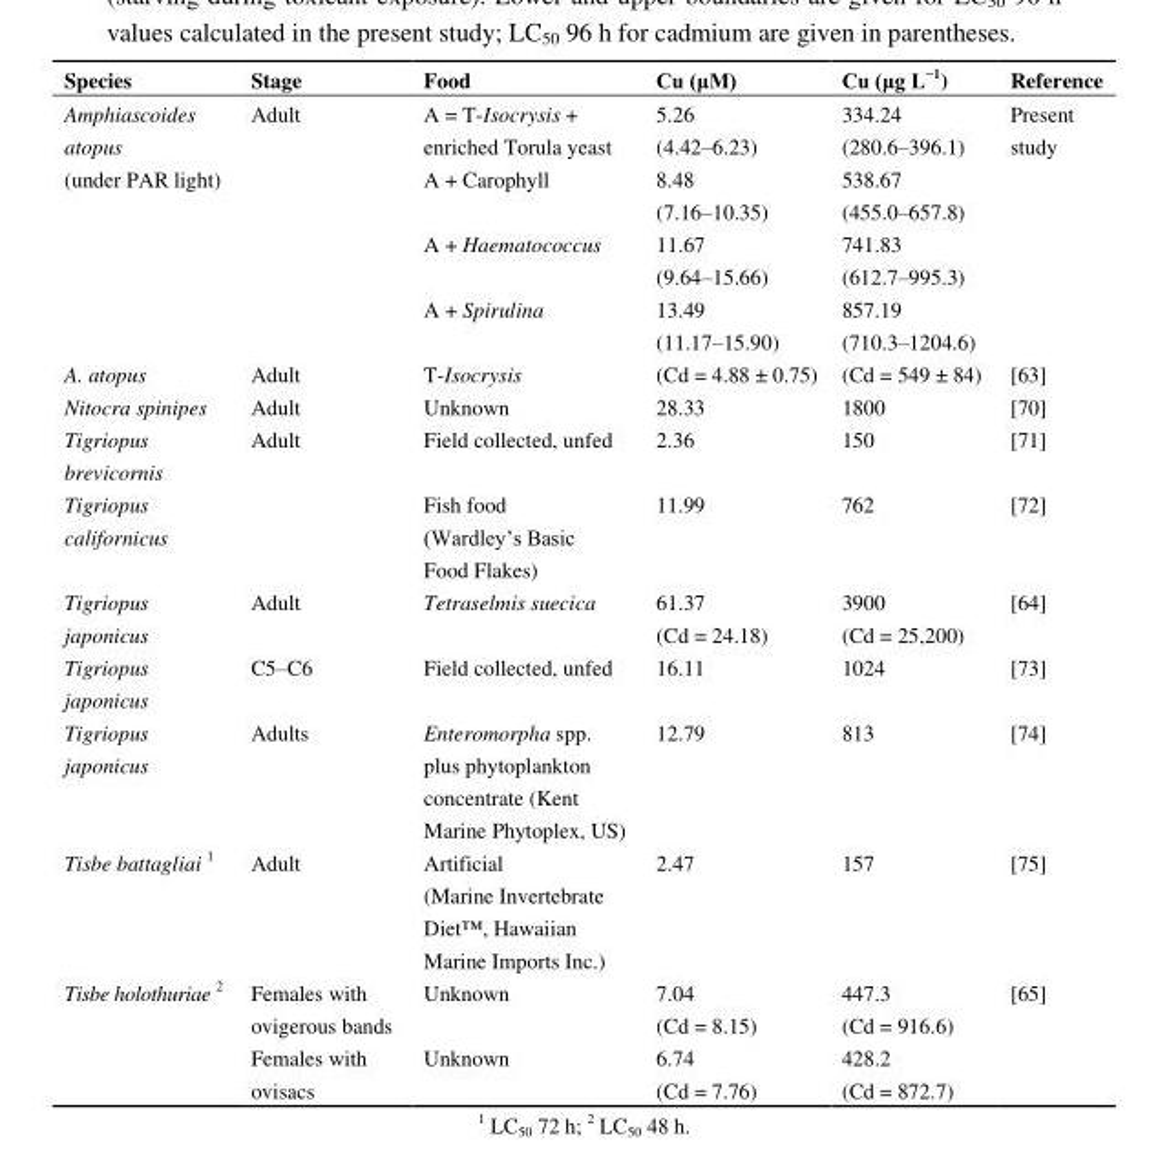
<table><thead><tr><td>Species</td><td>Stage</td><td>Food</td><td>Cu (μM)</td><td>Cu (μg L<sup>−1</sup>)</td><td>Reference</td></tr></thead><tbody><tr><td rowspan="4">Amphiascoides atopus (under PAR light)</td><td rowspan="4">Adult</td><td>A = T-Isocrysis + enriched Torula yeast</td><td>5.26 (4.42–6.23)</td><td>334.24 (280.6–396.1)</td><td rowspan="4">Present study</td></tr><tr><td>A + Carophyll</td><td>8.48 (7.16–10.35)</td><td>538.67 (455.0–657.8)</td></tr><tr><td>A + Haematococcus</td><td>11.67 (9.64–15.66)</td><td>741.83 (612.7–995.3)</td></tr><tr><td>A + Spirulina</td><td>13.49 (11.17–15.90)</td><td>857.19 (710.3–1204.6)</td></tr><tr><td>A. atopus</td><td>Adult</td><td>T-Isocrysis</td><td>(Cd = 4.88 ± 0.75)</td><td>(Cd = 549 ± 84)</td><td>[63]</td></tr><tr><td>Nitocra spinipes</td><td>Adult</td><td>Unknown</td><td>28.33</td><td>1800</td><td>[70]</td></tr><tr><td>Tigriopus brevicornis</td><td>Adult</td><td>Field collected, unfed</td><td>2.36</td><td>150</td><td>[71]</td></tr><tr><td>Tigriopus californicus</td><td></td><td>Fish food (Wardley’s Basic Food Flakes)</td><td>11.99</td><td>762</td><td>[72]</td></tr><tr><td>Tigriopus japonicus</td><td>Adult</td><td>Tetraselmis suecica</td><td>61.37 (Cd = 24.18)</td><td>3900 (Cd = 25,200)</td><td>[64]</td></tr><tr><td>Tigriopus japonicus</td><td>C5–C6</td><td>Field collected, unfed</td><td>16.11</td><td>1024</td><td>[73]</td></tr><tr><td>Tigriopus japonicus</td><td>Adults</td><td>Enteromorpha spp. plus phytoplankton concentrate (Kent Marine Phytoplex, US)</td><td>12.79</td><td>813</td><td>[74]</td></tr><tr><td>Tisbe battagliai <sup>1</sup></td><td>Adult</td><td>Artificial (Marine Invertebrate Diet™, Hawaiian Marine Imports Inc.)</td><td>2.47</td><td>157</td><td>[75]</td></tr><tr><td rowspan="2">Tisbe holothuriae <sup>2</sup></td><td>Females with ovigerous bands</td><td>Unknown</td><td>7.04 (Cd = 8.15)</td><td>447.3 (Cd = 916.6)</td><td rowspan="2">[65]</td></tr><tr><td>Females with ovisacs</td><td>Unknown</td><td>6.74 (Cd = 7.76)</td><td>428.2 (Cd = 872.7)</td></tr></tbody></table>